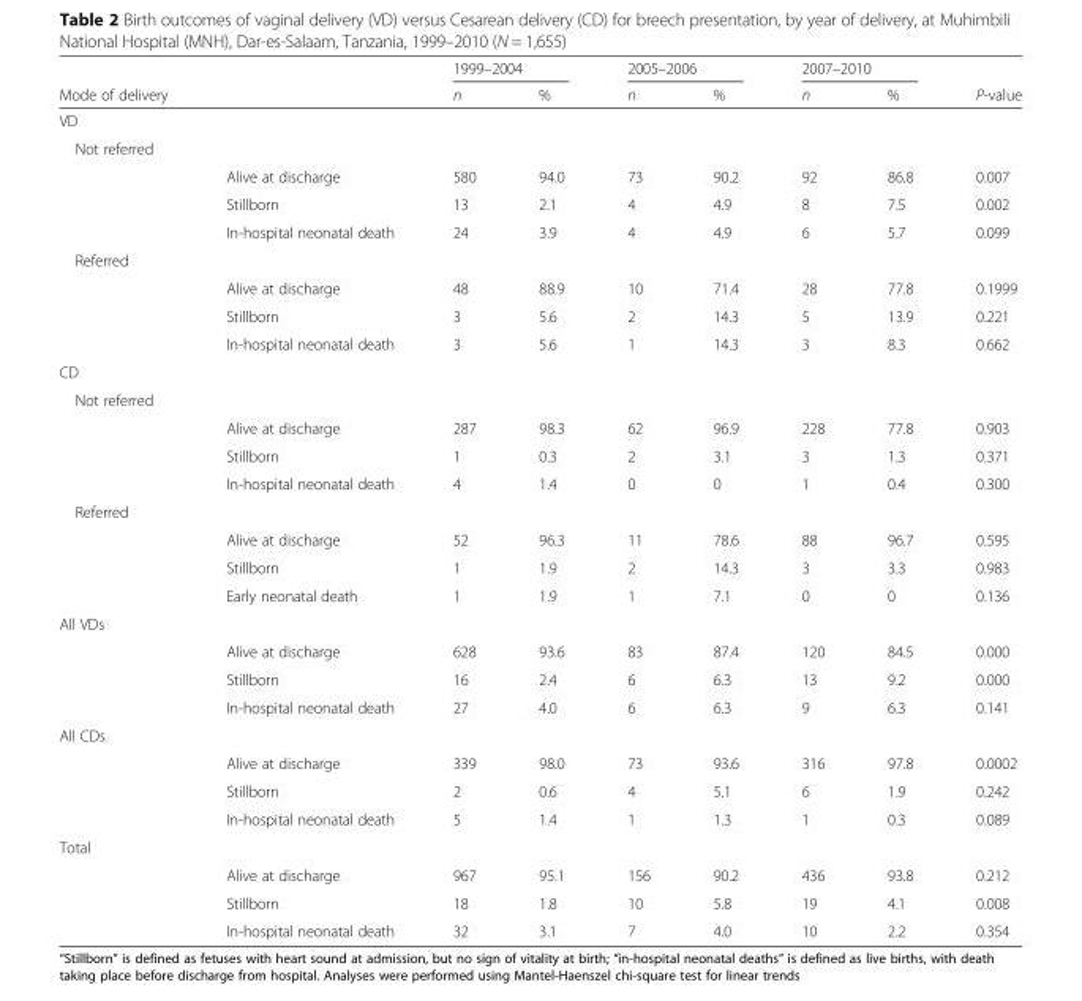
<table><thead><tr><td rowspan="2">Mode of delivery</td><td rowspan="2"></td><td colspan="2">1999–2004</td><td colspan="2">2005–2006</td><td colspan="2">2007–2010</td><td rowspan="2">P-value</td></tr><tr><td>n</td><td>%</td><td>n</td><td>%</td><td>n</td><td>%</td></tr></thead><tbody><tr><td colspan="9">VD</td></tr><tr><td colspan="9">Not referred</td></tr><tr><td></td><td>Alive at discharge</td><td>580</td><td>94.0</td><td>73</td><td>90.2</td><td>92</td><td>86.8</td><td>0.007</td></tr><tr><td></td><td>Stillborn</td><td>13</td><td>2.1</td><td>4</td><td>4.9</td><td>8</td><td>7.5</td><td>0.002</td></tr><tr><td></td><td>In-hospital neonatal death</td><td>24</td><td>3.9</td><td>4</td><td>4.9</td><td>6</td><td>5.7</td><td>0.099</td></tr><tr><td colspan="9">Referred</td></tr><tr><td></td><td>Alive at discharge</td><td>48</td><td>88.9</td><td>10</td><td>71.4</td><td>28</td><td>77.8</td><td>0.1999</td></tr><tr><td></td><td>Stillborn</td><td>3</td><td>5.6</td><td>2</td><td>14.3</td><td>5</td><td>13.9</td><td>0.221</td></tr><tr><td></td><td>In-hospital neonatal death</td><td>3</td><td>5.6</td><td>1</td><td>14.3</td><td>3</td><td>8.3</td><td>0.662</td></tr><tr><td colspan="9">CD</td></tr><tr><td colspan="9">Not referred</td></tr><tr><td></td><td>Alive at discharge</td><td>287</td><td>98.3</td><td>62</td><td>96.9</td><td>228</td><td>77.8</td><td>0.903</td></tr><tr><td></td><td>Stillborn</td><td>1</td><td>0.3</td><td>2</td><td>3.1</td><td>3</td><td>1.3</td><td>0.371</td></tr><tr><td></td><td>In-hospital neonatal death</td><td>4</td><td>1.4</td><td>0</td><td>0</td><td>1</td><td>0.4</td><td>0.300</td></tr><tr><td colspan="9">Referred</td></tr><tr><td></td><td>Alive at discharge</td><td>52</td><td>96.3</td><td>11</td><td>78.6</td><td>88</td><td>96.7</td><td>0.595</td></tr><tr><td></td><td>Stillborn</td><td>1</td><td>1.9</td><td>2</td><td>14.3</td><td>3</td><td>3.3</td><td>0.983</td></tr><tr><td></td><td>Early neonatal death</td><td>1</td><td>1.9</td><td>1</td><td>7.1</td><td>0</td><td>0</td><td>0.136</td></tr><tr><td colspan="9">All VDs</td></tr><tr><td></td><td>Alive at discharge</td><td>628</td><td>93.6</td><td>83</td><td>87.4</td><td>120</td><td>84.5</td><td>0.000</td></tr><tr><td></td><td>Stillborn</td><td>16</td><td>2.4</td><td>6</td><td>6.3</td><td>13</td><td>9.2</td><td>0.000</td></tr><tr><td></td><td>In-hospital neonatal death</td><td>27</td><td>4.0</td><td>6</td><td>6.3</td><td>9</td><td>6.3</td><td>0.141</td></tr><tr><td colspan="9">All CDs</td></tr><tr><td></td><td>Alive at discharge</td><td>339</td><td>98.0</td><td>73</td><td>93.6</td><td>316</td><td>97.8</td><td>0.0002</td></tr><tr><td></td><td>Stillborn</td><td>2</td><td>0.6</td><td>4</td><td>5.1</td><td>6</td><td>1.9</td><td>0.242</td></tr><tr><td></td><td>In-hospital neonatal death</td><td>5</td><td>1.4</td><td>1</td><td>1.3</td><td>1</td><td>0.3</td><td>0.089</td></tr><tr><td colspan="9">Total</td></tr><tr><td></td><td>Alive at discharge</td><td>967</td><td>95.1</td><td>156</td><td>90.2</td><td>436</td><td>93.8</td><td>0.212</td></tr><tr><td></td><td>Stillborn</td><td>18</td><td>1.8</td><td>10</td><td>5.8</td><td>19</td><td>4.1</td><td>0.008</td></tr><tr><td></td><td>In-hospital neonatal death</td><td>32</td><td>3.1</td><td>7</td><td>4.0</td><td>10</td><td>2.2</td><td>0.354</td></tr></tbody></table>